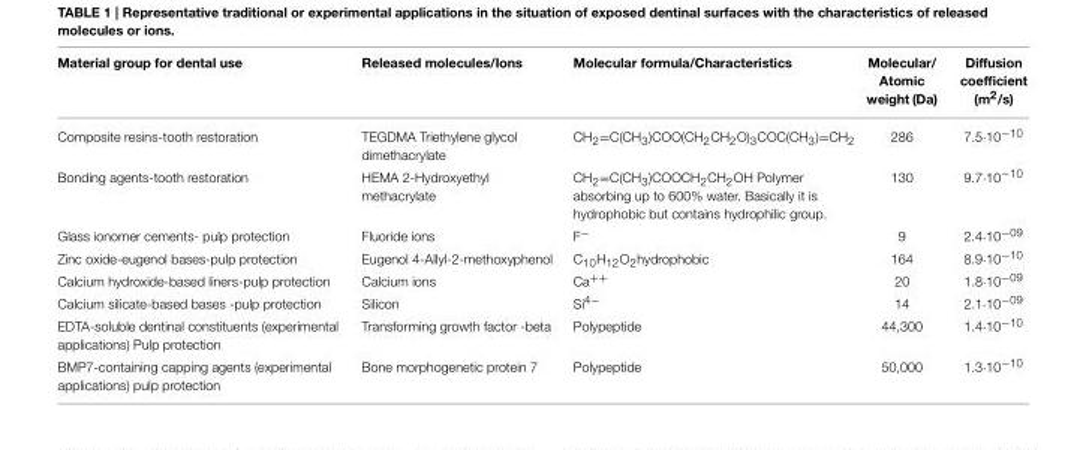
<table><thead><tr><td>Material group for dental use</td><td>Released molecules/Ions</td><td>Molecular formula/Characteristics</td><td>Molecular/ Atomic weight (Da)</td><td>Diffusion coefficient (m<sup>2</sup>/s)</td></tr></thead><tbody><tr><td>Composite resins-tooth restoration</td><td>TEGDMA Triethylene glycol dimethacrylate</td><td>CH<sub>2</sub>=C(CH<sub>3</sub>)COO(CH<sub>2</sub>CH<sub>2</sub>O)<sub>3</sub>COC(CH<sub>3</sub>)=CH<sub>2</sub></td><td>286</td><td>7.5·10<sup>−10</sup></td></tr><tr><td>Bonding agents-tooth restoration</td><td>HEMA 2-Hydroxyethyl methacrylate</td><td>CH<sub>2</sub>=C(CH<sub>3</sub>)COOCH<sub>2</sub>CH<sub>2</sub>OH Polymer absorbing up to 600% water. Basically it is hydrophobic but contains hydrophilic group.</td><td>130</td><td>9.7·10<sup>−10</sup></td></tr><tr><td>Glass ionomer cements- pulp protection</td><td>Fluoride ions</td><td>F<sup>−</sup></td><td>9</td><td>2.4·10<sup>−09</sup></td></tr><tr><td>Zinc oxide-eugenol bases-pulp protection</td><td>Eugenol 4-Allyl-2-methoxyphenol</td><td>C<sub>10</sub>H<sub>12</sub>O<sub>2</sub>hydrophobic</td><td>164</td><td>8.9·10<sup>−10</sup></td></tr><tr><td>Calcium hydroxide-based liners-pulp protection</td><td>Calcium ions</td><td>Ca<sup>++</sup></td><td>20</td><td>1.8·10<sup>−09</sup></td></tr><tr><td>Calcium silicate-based bases -pulp protection</td><td>Silicon</td><td>Si<sup>4−</sup></td><td>14</td><td>2.1·10<sup>−09</sup></td></tr><tr><td>EDTA-soluble dentinal constituents (experimental applications) Pulp protection</td><td>Transforming growth factor -beta</td><td>Polypeptide</td><td>44,300</td><td>1.4·10<sup>−10</sup></td></tr><tr><td>BMP7-containing capping agents (experimental applications) pulp protection</td><td>Bone morphogenetic protein 7</td><td>Polypeptide</td><td>50,000</td><td>1.3·10<sup>−10</sup></td></tr></tbody></table>